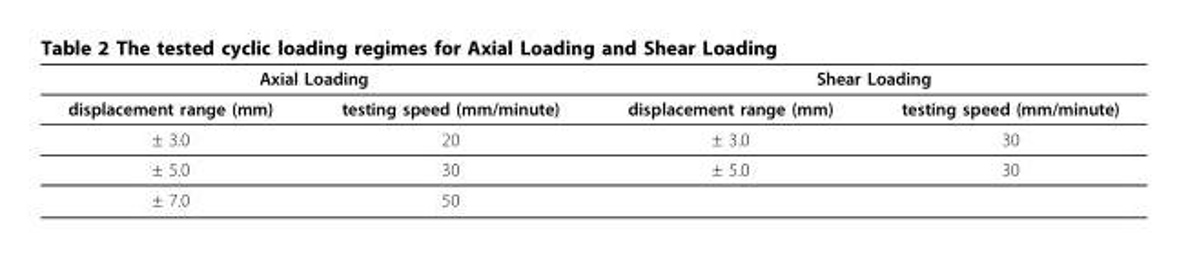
<table><thead><tr><td colspan="2">Axial Loading</td><td colspan="2">Shear Loading</td></tr><tr><td>displacement range (mm)</td><td>testing speed (mm/minute)</td><td>displacement range (mm)</td><td>testing speed (mm/minute)</td></tr></thead><tbody><tr><td>± 3.0</td><td>20</td><td>± 3.0</td><td>30</td></tr><tr><td>± 5.0</td><td>30</td><td>± 5.0</td><td>30</td></tr><tr><td>± 7.0</td><td>50</td><td></td><td></td></tr></tbody></table>